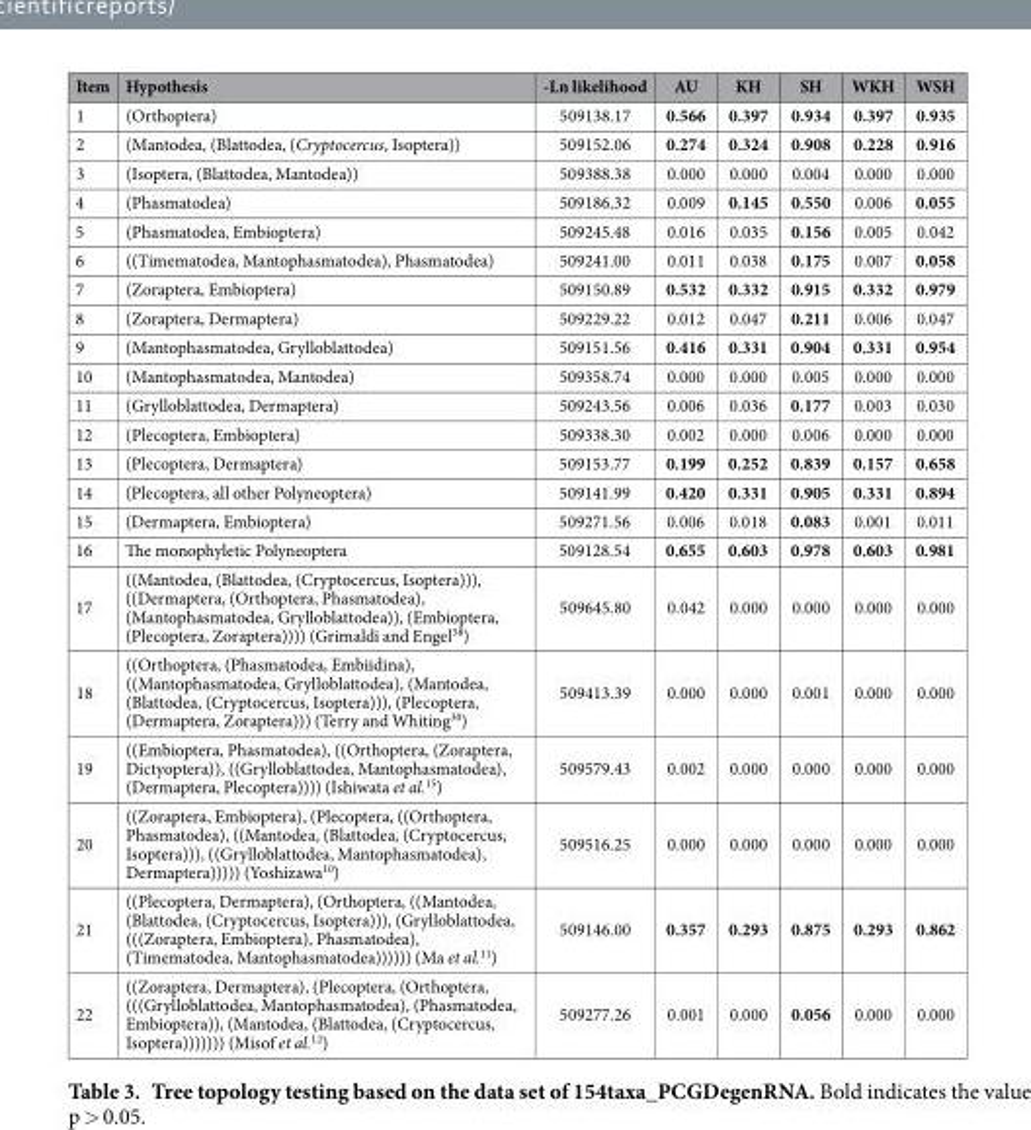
<table><thead><tr><td>Item</td><td>Hypothesis</td><td>-Ln likelihood</td><td>AU</td><td>KH</td><td>SH</td><td>WKH</td><td>WSH</td></tr></thead><tbody><tr><td>1</td><td>(Orthoptera)</td><td>509138.17</td><td>0.566</td><td>0.397</td><td>0.934</td><td>0.397</td><td>0.935</td></tr><tr><td>2</td><td>(Mantodea, (Blattodea, (Cryptocercus, Isoptera))</td><td>509152.06</td><td>0.274</td><td>0.324</td><td>0.908</td><td>0.228</td><td>0.916</td></tr><tr><td>3</td><td>(Isoptera, (Blattodea, Mantodea))</td><td>509388.38</td><td>0.000</td><td>0.000</td><td>0.004</td><td>0.000</td><td>0.000</td></tr><tr><td>4</td><td>(Phasmatodea)</td><td>509186.32</td><td>0.009</td><td>0.145</td><td>0.550</td><td>0.006</td><td>0.055</td></tr><tr><td>5</td><td>(Phasmatodea, Embioptera)</td><td>509245.48</td><td>0.016</td><td>0.035</td><td>0.156</td><td>0.005</td><td>0.042</td></tr><tr><td>6</td><td>((Timematodea, Mantophasmatodea), Phasmatodea)</td><td>509241.00</td><td>0.011</td><td>0.038</td><td>0.175</td><td>0.007</td><td>0.058</td></tr><tr><td>7</td><td>(Zoraptera, Embioptera)</td><td>509150.89</td><td>0.532</td><td>0.332</td><td>0.915</td><td>0.332</td><td>0.979</td></tr><tr><td>8</td><td>(Zoraptera, Dermaptera)</td><td>509229.22</td><td>0.012</td><td>0.047</td><td>0.211</td><td>0.006</td><td>0.047</td></tr><tr><td>9</td><td>(Mantophasmatodea, Grylloblattodea)</td><td>509151.56</td><td>0.416</td><td>0.331</td><td>0.904</td><td>0.331</td><td>0.954</td></tr><tr><td>10</td><td>(Mantophasmatodea, Mantodea)</td><td>509358.74</td><td>0.000</td><td>0.000</td><td>0.005</td><td>0.000</td><td>0.000</td></tr><tr><td>11</td><td>(Grylloblattodea, Dermaptera)</td><td>509243.56</td><td>0.006</td><td>0.036</td><td>0.177</td><td>0.003</td><td>0.030</td></tr><tr><td>12</td><td>(Plecoptera, Embioptera)</td><td>509338.30</td><td>0.002</td><td>0.000</td><td>0.006</td><td>0.000</td><td>0.000</td></tr><tr><td>13</td><td>(Plecoptera, Dermaptera)</td><td>509153.77</td><td>0.199</td><td>0.252</td><td>0.839</td><td>0.157</td><td>0.658</td></tr><tr><td>14</td><td>(Plecoptera, all other Polyneoptera)</td><td>509141.99</td><td>0.420</td><td>0.331</td><td>0.905</td><td>0.331</td><td>0.894</td></tr><tr><td>15</td><td>(Dermaptera, Embioptera)</td><td>509271.56</td><td>0.006</td><td>0.018</td><td>0.083</td><td>0.001</td><td>0.011</td></tr><tr><td>16</td><td>The monophyletic Polyneoptera</td><td>509128.54</td><td>0.655</td><td>0.603</td><td>0.978</td><td>0.603</td><td>0.981</td></tr><tr><td>17</td><td>((Mantodea, (Blattodea, (Cryptocercus, Isoptera))), ((Dermaptera, (Orthoptera, Phasmatodea), (Mantophasmatodea, Grylloblattodea)), (Embioptera, (Plecoptera, Zoraptera)))) (Grimaldi and Engel<sup>58</sup>)</td><td>509645.80</td><td>0.042</td><td>0.000</td><td>0.000</td><td>0.000</td><td>0.000</td></tr><tr><td>18</td><td>((Orthoptera, (Phasmatodea, Embiidina), ((Mantophasmatodea, Grylloblattodea), (Mantodea, (Blattodea, (Cryptocercus, Isoptera))), (Plecoptera, (Dermaptera, Zoraptera))) (Terry and Whiting<sup>30</sup>)</td><td>509413.39</td><td>0.000</td><td>0.000</td><td>0.001</td><td>0.000</td><td>0.000</td></tr><tr><td>19</td><td>((Embioptera, Phasmatodea), ((Orthoptera, (Zoraptera, Dictyoptera)), ((Grylloblattodea, Mantophasmatodea), (Dermaptera, Plecoptera)))) (Ishiwata et al.<sup>15</sup>)</td><td>509579.43</td><td>0.002</td><td>0.000</td><td>0.000</td><td>0.000</td><td>0.000</td></tr><tr><td>20</td><td>((Zoraptera, Embioptera), (Plecoptera, ((Orthoptera, Phasmatodea), ((Mantodea, (Blattodea, (Cryptocercus, Isoptera))), ((Grylloblattodea, Mantophasmatodea), Dermaptera))))) (Yoshizawa<sup>10</sup>)</td><td>509516.25</td><td>0.000</td><td>0.000</td><td>0.000</td><td>0.000</td><td>0.000</td></tr><tr><td>21</td><td>((Plecoptera, Dermaptera), (Orthoptera, ((Mantodea, (Blattodea, (Cryptocercus, Isoptera))), (Grylloblattodea, (((Zoraptera, Embioptera), Phasmatodea), (Timematodea, Mantophasmatodea)))))) (Ma et al.<sup>11</sup>)</td><td>509146.00</td><td>0.357</td><td>0.293</td><td>0.875</td><td>0.293</td><td>0.862</td></tr><tr><td>22</td><td>((Zoraptera, Dermaptera), (Plecoptera, (Orthoptera, (((Grylloblattodea, Mantophasmatodea), (Phasmatodea, Embioptera)), (Mantodea, (Blattodea, (Cryptocercus, Isoptera))))))) (Misof et al.<sup>12</sup>)</td><td>509277.26</td><td>0.001</td><td>0.000</td><td>0.056</td><td>0.000</td><td>0.000</td></tr></tbody></table>